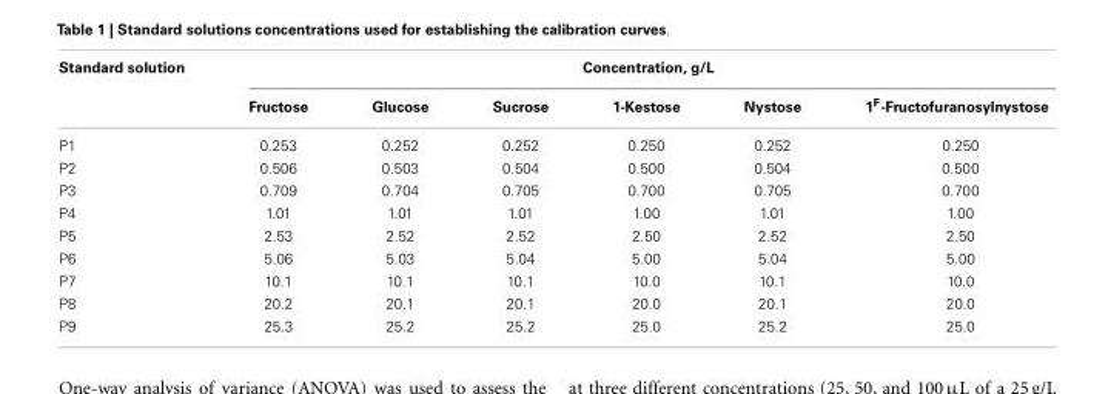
<table><thead><tr><td rowspan="2">Standard solution</td><td colspan="6">Concentration, g/L</td></tr><tr><td>Fructose</td><td>Glucose</td><td>Sucrose</td><td>1-Kestose</td><td>Nystose</td><td>1<sup>F</sup>-Fructofuranosylnystose</td></tr></thead><tbody><tr><td>P1</td><td>0.253</td><td>0.252</td><td>0.252</td><td>0.250</td><td>0.252</td><td>0.250</td></tr><tr><td>P2</td><td>0.506</td><td>0.503</td><td>0.504</td><td>0.500</td><td>0.504</td><td>0.500</td></tr><tr><td>P3</td><td>0.709</td><td>0.704</td><td>0.705</td><td>0.700</td><td>0.705</td><td>0.700</td></tr><tr><td>P4</td><td>1.01</td><td>1.01</td><td>1.01</td><td>1.00</td><td>1.01</td><td>1.00</td></tr><tr><td>P5</td><td>2.53</td><td>2.52</td><td>2.52</td><td>2.50</td><td>2.52</td><td>2.50</td></tr><tr><td>P6</td><td>5.06</td><td>5.03</td><td>5.04</td><td>5.00</td><td>5.04</td><td>5.00</td></tr><tr><td>P7</td><td>10.1</td><td>10.1</td><td>10.1</td><td>10.0</td><td>10.1</td><td>10.0</td></tr><tr><td>P8</td><td>20.2</td><td>20.1</td><td>20.1</td><td>20.0</td><td>20.1</td><td>20.0</td></tr><tr><td>P9</td><td>25.3</td><td>25.2</td><td>25.2</td><td>25.0</td><td>25.2</td><td>25.0</td></tr></tbody></table>